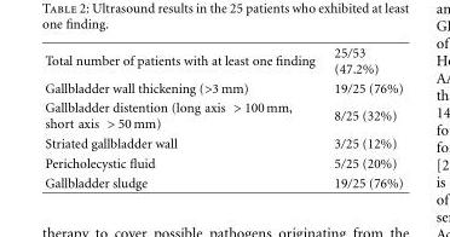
<table><tbody><tr><td>Total number of patients with at least one finding</td><td>25/53 (47.2%)</td></tr><tr><td>Gallbladder wall thickening (&gt;3 mm)</td><td>19/25 (76%)</td></tr><tr><td>Gallbladder distention (long axis &gt; 100mm, short axis &gt; 50 mm)</td><td>8/25 (32%)</td></tr><tr><td>Striated gallbladder wall</td><td>3/25 (12%)</td></tr><tr><td>Pericholecystic fluid</td><td>5/25 (20%)</td></tr><tr><td>Gallbladder sludge</td><td>19/25 (76%)</td></tr></tbody></table>